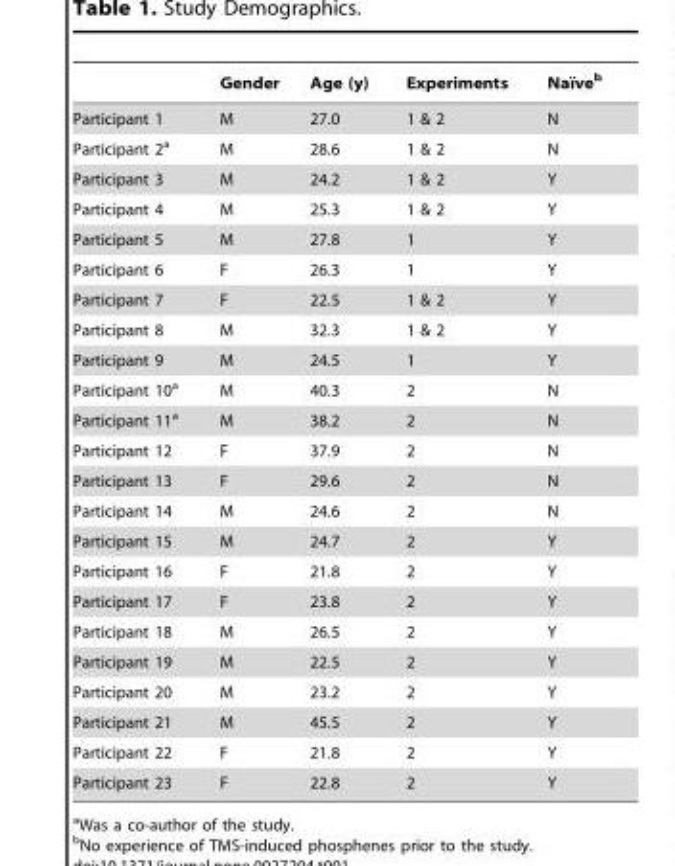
<table><thead><tr><td></td><td>Gender</td><td>Age (y)</td><td>Experiments</td><td>Naı¨veb</td></tr></thead><tbody><tr><td>Participant 1</td><td>M</td><td>27.0</td><td>1 &amp; 2</td><td>N</td></tr><tr><td>Participant 2<sup>a</sup></td><td>M</td><td>28.6</td><td>1 &amp; 2</td><td>N</td></tr><tr><td>Participant 3</td><td>M</td><td>24.2</td><td>1 &amp; 2</td><td>Y</td></tr><tr><td>Participant 4</td><td>M</td><td>25.3</td><td>1 &amp; 2</td><td>Y</td></tr><tr><td>Participant 5</td><td>M</td><td>27.8</td><td>1</td><td>Y</td></tr><tr><td>Participant 6</td><td>F</td><td>26.3</td><td>1</td><td>Y</td></tr><tr><td>Participant 7</td><td>F</td><td>22.5</td><td>1 &amp; 2</td><td>Y</td></tr><tr><td>Participant 8</td><td>M</td><td>32.3</td><td>1 &amp; 2</td><td>Y</td></tr><tr><td>Participant 9</td><td>M</td><td>24.5</td><td>1</td><td>Y</td></tr><tr><td>Participant 10<sup>a</sup></td><td>M</td><td>40.3</td><td>2</td><td>N</td></tr><tr><td>Participant 11<sup>a</sup></td><td>M</td><td>38.2</td><td>2</td><td>N</td></tr><tr><td>Participant 12</td><td>F</td><td>37.9</td><td>2</td><td>N</td></tr><tr><td>Participant 13</td><td>F</td><td>29.6</td><td>2</td><td>N</td></tr><tr><td>Participant 14</td><td>M</td><td>24.6</td><td>2</td><td>N</td></tr><tr><td>Participant 15</td><td>M</td><td>24.7</td><td>2</td><td>Y</td></tr><tr><td>Participant 16</td><td>F</td><td>21.8</td><td>2</td><td>Y</td></tr><tr><td>Participant 17</td><td>F</td><td>23.8</td><td>2</td><td>Y</td></tr><tr><td>Participant 18</td><td>M</td><td>26.5</td><td>2</td><td>Y</td></tr><tr><td>Participant 19</td><td>M</td><td>22.5</td><td>2</td><td>Y</td></tr><tr><td>Participant 20</td><td>M</td><td>23.2</td><td>2</td><td>Y</td></tr><tr><td>Participant 21</td><td>M</td><td>45.5</td><td>2</td><td>Y</td></tr><tr><td>Participant 22</td><td>F</td><td>21.8</td><td>2</td><td>Y</td></tr><tr><td>Participant 23</td><td>F</td><td>22.8</td><td>2</td><td>Y</td></tr></tbody></table>